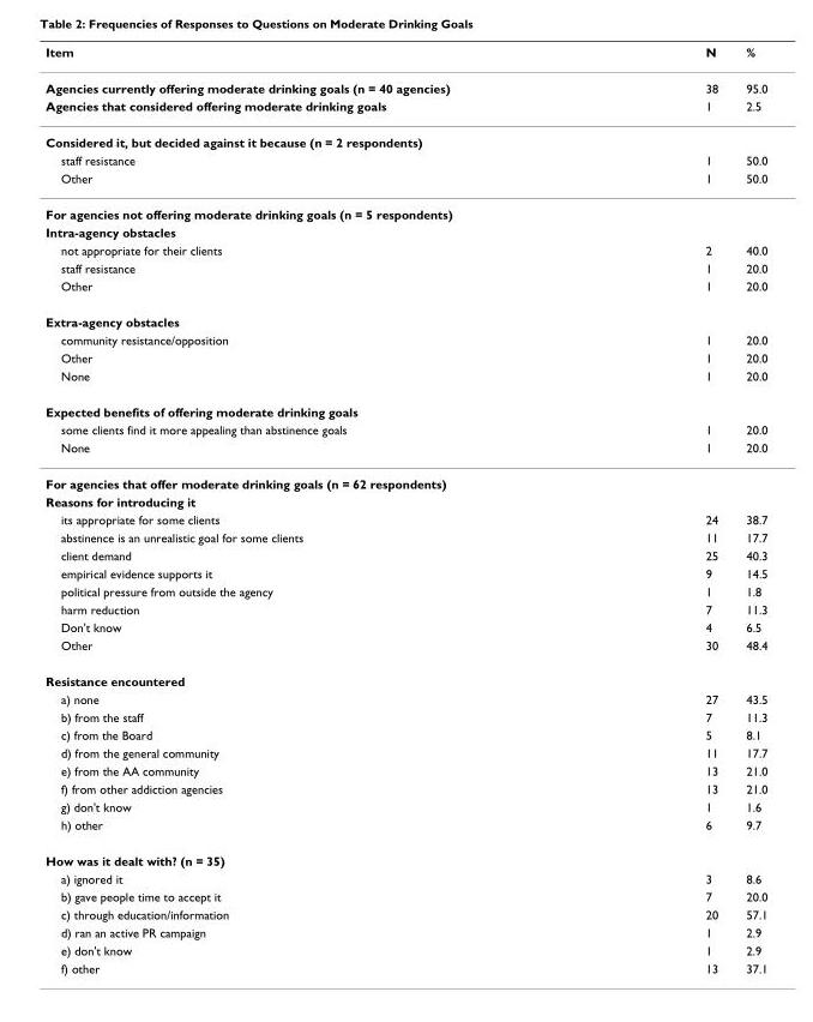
<table><thead><tr><td>Item</td><td>N</td><td>%</td></tr></thead><tbody><tr><td>Agencies currently offering moderate drinking goals (n = 40 agencies)</td><td>38</td><td>95.0</td></tr><tr><td>Agencies that considered offering moderate drinking goals</td><td>1</td><td>2.5</td></tr><tr><td colspan="3">Considered it, but decided against it because (n = 2 respondents)</td></tr><tr><td>staff resistance</td><td>1</td><td>50.0</td></tr><tr><td>Other</td><td>1</td><td>50.0</td></tr><tr><td colspan="3">For agencies not offering moderate drinking goals (n = 5 respondents)</td></tr><tr><td colspan="3">Intra-agency obstacles</td></tr><tr><td>not appropriate for their clients</td><td>2</td><td>40.0</td></tr><tr><td>staff resistance</td><td>1</td><td>20.0</td></tr><tr><td>Other</td><td>1</td><td>20.0</td></tr><tr><td colspan="3">Extra-agency obstacles</td></tr><tr><td>community resistance/opposition</td><td>1</td><td>20.0</td></tr><tr><td>Other</td><td>1</td><td>20.0</td></tr><tr><td>None</td><td>1</td><td>20.0</td></tr><tr><td colspan="3">Expected benefits of offering moderate drinking goals</td></tr><tr><td>some clients find it more appealing than abstinence goals</td><td>1</td><td>20.0</td></tr><tr><td>None</td><td>1</td><td>20.0</td></tr><tr><td colspan="3">For agencies that offer moderate drinking goals (n = 62 respondents)</td></tr><tr><td colspan="3">Reasons for introducing it</td></tr><tr><td>its appropriate for some clients</td><td>24</td><td>38.7</td></tr><tr><td>abstinence is an unrealistic goal for some clients</td><td>11</td><td>17.7</td></tr><tr><td>client demand</td><td>25</td><td>40.3</td></tr><tr><td>empirical evidence supports it</td><td>9</td><td>14.5</td></tr><tr><td>political pressure from outside the agency</td><td>1</td><td>1.8</td></tr><tr><td>harm reduction</td><td>7</td><td>11.3</td></tr><tr><td>Don&#x27;t know</td><td>4</td><td>6.5</td></tr><tr><td>Other</td><td>30</td><td>48.4</td></tr><tr><td colspan="3">Resistance encountered</td></tr><tr><td>a) none</td><td>27</td><td>43.5</td></tr><tr><td>b) from the staff</td><td>7</td><td>11.3</td></tr><tr><td>c) from the Board</td><td>5</td><td>8.1</td></tr><tr><td>d) from the general community</td><td>11</td><td>17.7</td></tr><tr><td>e) from the AA community</td><td>13</td><td>21.0</td></tr><tr><td>f) from other addiction agencies</td><td>13</td><td>21.0</td></tr><tr><td>g) don&#x27;t know</td><td>1</td><td>1.6</td></tr><tr><td>h) other</td><td>6</td><td>9.7</td></tr><tr><td colspan="3">How was it dealt with? (n = 35)</td></tr><tr><td>a) ignored it</td><td>3</td><td>8.6</td></tr><tr><td>b) gave people time to accept it</td><td>7</td><td>20.0</td></tr><tr><td>c) through education/information</td><td>20</td><td>57.1</td></tr><tr><td>d) ran an active PR campaign</td><td>1</td><td>2.9</td></tr><tr><td>e) don&#x27;t know</td><td>1</td><td>2.9</td></tr><tr><td>f) other</td><td>13</td><td>37.1</td></tr></tbody></table>